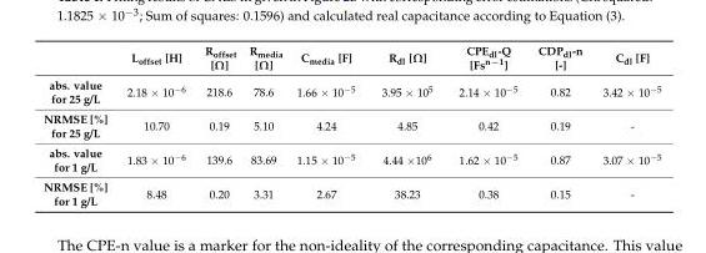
<table><thead><tr><td></td><td>L<sub>offset</sub> [H]</td><td>R<sub>offset</sub> [Ω]</td><td>R<sub>media</sub> [Ω]</td><td>C<sub>media</sub> [F]</td><td>R<sub>dl</sub> [Ω]</td><td>CPE<sub>dl</sub>-Q [Fs<sup>n−1</sup>]</td><td>CDP<sub>dl</sub>-n [-]</td><td>C<sub>dl</sub> [F]</td></tr></thead><tbody><tr><td>abs. value for 25 g/L</td><td>2.18 × 10<sup>−6</sup></td><td>218.6</td><td>78.6</td><td>1.66 × 10<sup>−5</sup></td><td>3.95 × 10<sup>5</sup></td><td>2.14 × 10<sup>−5</sup></td><td>0.82</td><td>3.42 × 10<sup>−5</sup></td></tr><tr><td>NRMSE [%] for 25 g/L</td><td>10.70</td><td>0.19</td><td>5.10</td><td>4.24</td><td>4.85</td><td>0.42</td><td>0.19</td><td>-</td></tr><tr><td>abs. value for 1 g/L</td><td>1.83 × 10<sup>−6</sup></td><td>139.6</td><td>83.69</td><td>1.15 × 10<sup>−5</sup></td><td>4.44 ×10<sup>6</sup></td><td>1.62 × 10<sup>−5</sup></td><td>0.87</td><td>3.07 × 10<sup>−5</sup></td></tr><tr><td>NRMSE [%] for 1 g/L</td><td>8.48</td><td>0.20</td><td>3.31</td><td>2.67</td><td>38.23</td><td>0.38</td><td>0.15</td><td>-</td></tr></tbody></table>